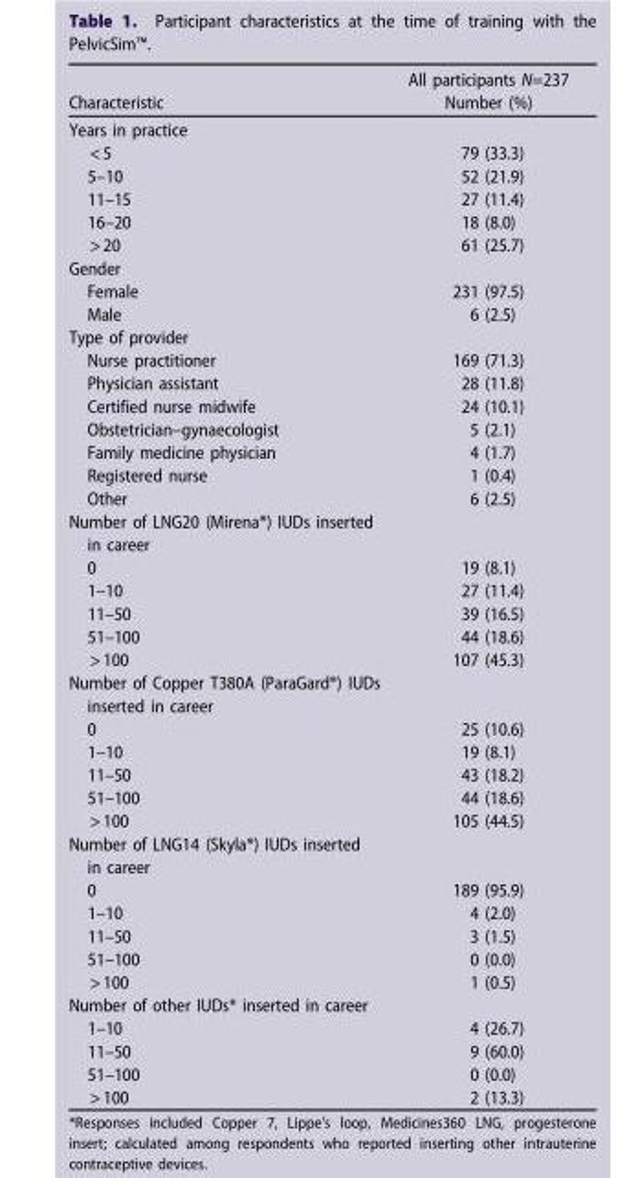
<table><thead><tr><td>Characteristic</td><td>All participants N=237 Number (%)</td></tr></thead><tbody><tr><td colspan="2">Years in practice</td></tr><tr><td>&lt;5</td><td>79 (33.3)</td></tr><tr><td>5–10</td><td>52 (21.9)</td></tr><tr><td>11–15</td><td>27 (11.4)</td></tr><tr><td>16–20</td><td>18 (8.0)</td></tr><tr><td>&gt;20</td><td>61 (25.7)</td></tr><tr><td colspan="2">Gender</td></tr><tr><td>Female</td><td>231 (97.5)</td></tr><tr><td>Male</td><td>6 (2.5)</td></tr><tr><td colspan="2">Type of provider</td></tr><tr><td>Nurse practitioner</td><td>169 (71.3)</td></tr><tr><td>Physician assistant</td><td>28 (11.8)</td></tr><tr><td>Certified nurse midwife</td><td>24 (10.1)</td></tr><tr><td>Obstetrician–gynaecologist</td><td>5 (2.1)</td></tr><tr><td>Family medicine physician</td><td>4 (1.7)</td></tr><tr><td>Registered nurse</td><td>1 (0.4)</td></tr><tr><td>Other</td><td>6 (2.5)</td></tr><tr><td colspan="2">Number of LNG20 (Mirena<sup>®</sup>) IUDs inserted in career</td></tr><tr><td>0</td><td>19 (8.1)</td></tr><tr><td>1–10</td><td>27 (11.4)</td></tr><tr><td>11–50</td><td>39 (16.5)</td></tr><tr><td>51–100</td><td>44 (18.6)</td></tr><tr><td>&gt;100</td><td>107 (45.3)</td></tr><tr><td colspan="2">Number of Copper T380A (ParaGard<sup>®</sup>) IUDs inserted in career</td></tr><tr><td>0</td><td>25 (10.6)</td></tr><tr><td>1–10</td><td>19 (8.1)</td></tr><tr><td>11–50</td><td>43 (18.2)</td></tr><tr><td>51–100</td><td>44 (18.6)</td></tr><tr><td>&gt;100</td><td>105 (44.5)</td></tr><tr><td colspan="2">Number of LNG14 (Skyla<sup>®</sup>) IUDs inserted in career</td></tr><tr><td>0</td><td>189 (95.9)</td></tr><tr><td>1–10</td><td>4 (2.0)</td></tr><tr><td>11–50</td><td>3 (1.5)</td></tr><tr><td>51–100</td><td>0 (0.0)</td></tr><tr><td>&gt;100</td><td>1 (0.5)</td></tr><tr><td colspan="2">Number of other IUDs* inserted in career</td></tr><tr><td>1–10</td><td>4 (26.7)</td></tr><tr><td>11–50</td><td>9 (60.0)</td></tr><tr><td>51–100</td><td>0 (0.0)</td></tr><tr><td>&gt;100</td><td>2 (13.3)</td></tr></tbody></table>